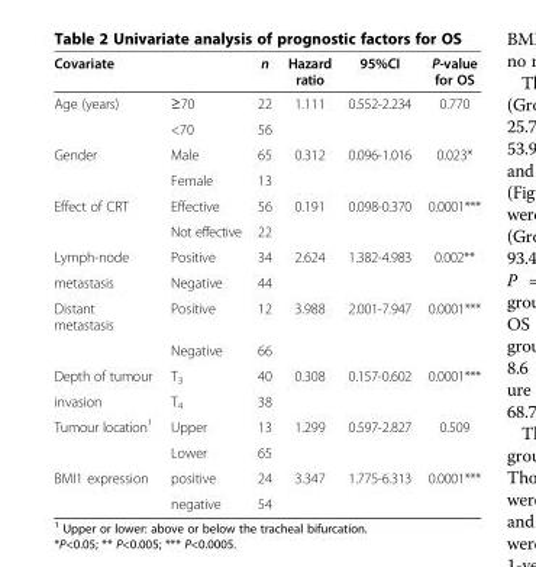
<table><thead><tr><td>Covariate</td><td></td><td>n</td><td>Hazard ratio</td><td>95%CI</td><td>P-value for OS</td></tr></thead><tbody><tr><td rowspan="2">Age (years)</td><td>≥70</td><td>22</td><td>1.111</td><td>0.552-2.234</td><td>0.770</td></tr><tr><td>&lt;70</td><td>56</td><td></td><td></td><td></td></tr><tr><td rowspan="2">Gender</td><td>Male</td><td>65</td><td>0.312</td><td>0.096-1.016</td><td>0.023*</td></tr><tr><td>Female</td><td>13</td><td></td><td></td><td></td></tr><tr><td rowspan="2">Effect of CRT</td><td>Effective</td><td>56</td><td>0.191</td><td>0.098-0.370</td><td>0.0001***</td></tr><tr><td>Not effective</td><td>22</td><td></td><td></td><td></td></tr><tr><td>Lymph-node</td><td>Positive</td><td>34</td><td>2.624</td><td>1.382-4.983</td><td>0.002**</td></tr><tr><td>metastasis</td><td>Negative</td><td>44</td><td></td><td></td><td></td></tr><tr><td rowspan="2">Distant metastasis</td><td>Positive</td><td>12</td><td>3.988</td><td>2.001-7.947</td><td>0.0001***</td></tr><tr><td>Negative</td><td>66</td><td></td><td></td><td></td></tr><tr><td>Depth of tumour</td><td>T<sub>3</sub></td><td>40</td><td>0.308</td><td>0.157-0.602</td><td>0.0001***</td></tr><tr><td>invasion</td><td>T<sub>4</sub></td><td>38</td><td></td><td></td><td></td></tr><tr><td rowspan="2">Tumour location<sup>1</sup></td><td>Upper</td><td>13</td><td>1.299</td><td>0.597-2.827</td><td>0.509</td></tr><tr><td>Lower</td><td>65</td><td></td><td></td><td></td></tr><tr><td rowspan="2">BMI1 expression</td><td>positive</td><td>24</td><td>3.347</td><td>1.775-6.313</td><td>0.0001***</td></tr><tr><td>negative</td><td>54</td><td></td><td></td><td></td></tr></tbody></table>